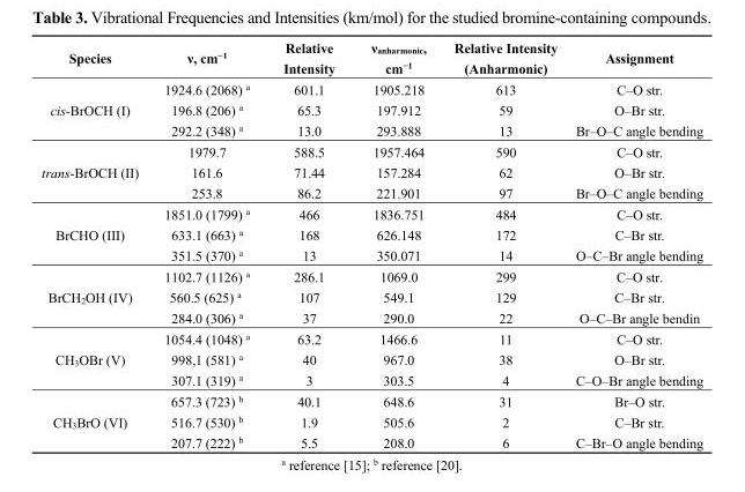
<table><thead><tr><td>Species</td><td>ν, cm<sup>−1</sup></td><td>Relative Intensity</td><td>ν<sub>anharmonic</sub>, cm<sup>−1</sup></td><td>Relative Intensity (Anharmonic)</td><td>Assignment</td></tr></thead><tbody><tr><td rowspan="3">cis-BrOCH (I)</td><td>1924.6 (2068) <sup>a</sup></td><td>601.1</td><td>1905.218</td><td>613</td><td>C–O str.</td></tr><tr><td>196.8 (206) <sup>a</sup></td><td>65.3</td><td>197.912</td><td>59</td><td>O–Br str.</td></tr><tr><td>292.2 (348) <sup>a</sup></td><td>13.0</td><td>293.888</td><td>13</td><td>Br–O–C angle bending</td></tr><tr><td rowspan="3">trans-BrOCH (II)</td><td>1979.7</td><td>588.5</td><td>1957.464</td><td>590</td><td>C–O str.</td></tr><tr><td>161.6</td><td>71.44</td><td>157.284</td><td>62</td><td>O–Br str.</td></tr><tr><td>253.8</td><td>86.2</td><td>221.901</td><td>97</td><td>Br–O–C angle bending</td></tr><tr><td rowspan="3">BrCHO (III)</td><td>1851.0 (1799) <sup>a</sup></td><td>466</td><td>1836.751</td><td>484</td><td>C–O str.</td></tr><tr><td>633.1 (663) <sup>a</sup></td><td>168</td><td>626.148</td><td>172</td><td>C–Br str.</td></tr><tr><td>351.5 (370) <sup>a</sup></td><td>13</td><td>350.071</td><td>14</td><td>O–C–Br angle bending</td></tr><tr><td rowspan="3">BrCH<sub>2</sub>OH (IV)</td><td>1102.7 (1126) <sup>a</sup></td><td>286.1</td><td>1069.0</td><td>299</td><td>C–O str.</td></tr><tr><td>560.5 (625) <sup>a</sup></td><td>107</td><td>549.1</td><td>129</td><td>C–Br str.</td></tr><tr><td>284.0 (306) <sup>a</sup></td><td>37</td><td>290.0</td><td>22</td><td>O–C–Br angle bendin</td></tr><tr><td rowspan="3">CH<sub>3</sub>OBr (V)</td><td>1054.4 (1048) <sup>a</sup></td><td>63.2</td><td>1466.6</td><td>11</td><td>C–O str.</td></tr><tr><td>998,1 (581) <sup>a</sup></td><td>40</td><td>967.0</td><td>38</td><td>O–Br str.</td></tr><tr><td>307.1 (319) <sup>a</sup></td><td>3</td><td>303.5</td><td>4</td><td>C–O–Br angle bending</td></tr><tr><td rowspan="3">CH<sub>3</sub>BrO (VI)</td><td>657.3 (723) <sup>b</sup></td><td>40.1</td><td>648.6</td><td>31</td><td>Br–O str.</td></tr><tr><td>516.7 (530) <sup>b</sup></td><td>1.9</td><td>505.6</td><td>2</td><td>C–Br str.</td></tr><tr><td>207.7 (222) <sup>b</sup></td><td>5.5</td><td>208.0</td><td>6</td><td>C–Br–O angle bending</td></tr></tbody></table>